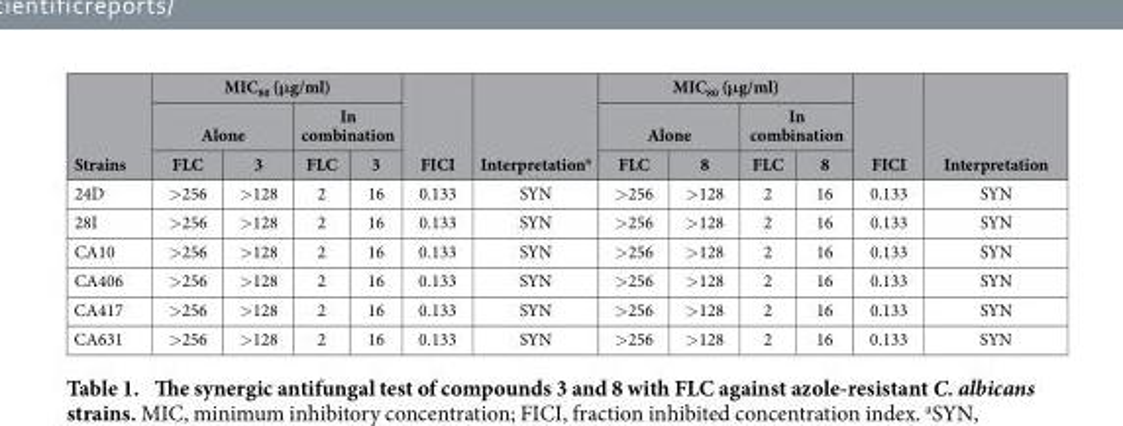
<table><thead><tr><td rowspan="3">Strains</td><td colspan="4">MIC<sub>80</sub> (μg/ml)</td><td rowspan="3">FICI</td><td rowspan="3">Interpretation<sup>a</sup></td><td colspan="4">MIC<sub>80</sub> (μg/ml)</td><td rowspan="3">FICI</td><td rowspan="3">Interpretation</td></tr><tr><td colspan="2">Alone</td><td colspan="2">In combination</td><td colspan="2">Alone</td><td colspan="2">In combination</td></tr><tr><td>FLC</td><td>3</td><td>FLC</td><td>3</td><td>FLC</td><td>8</td><td>FLC</td><td>8</td></tr></thead><tbody><tr><td>24D</td><td>&gt; 256</td><td>&gt; 128</td><td>2</td><td>16</td><td>0.133</td><td>SYN</td><td>&gt; 256</td><td>&gt; 128</td><td>2</td><td>16</td><td>0.133</td><td>SYN</td></tr><tr><td>28I</td><td>&gt; 256</td><td>&gt; 128</td><td>2</td><td>16</td><td>0.133</td><td>SYN</td><td>&gt; 256</td><td>&gt; 128</td><td>2</td><td>16</td><td>0.133</td><td>SYN</td></tr><tr><td>CA10</td><td>&gt; 256</td><td>&gt; 128</td><td>2</td><td>16</td><td>0.133</td><td>SYN</td><td>&gt; 256</td><td>&gt; 128</td><td>2</td><td>16</td><td>0.133</td><td>SYN</td></tr><tr><td>CA406</td><td>&gt; 256</td><td>&gt; 128</td><td>2</td><td>16</td><td>0.133</td><td>SYN</td><td>&gt; 256</td><td>&gt; 128</td><td>2</td><td>16</td><td>0.133</td><td>SYN</td></tr><tr><td>CA417</td><td>&gt; 256</td><td>&gt; 128</td><td>2</td><td>16</td><td>0.133</td><td>SYN</td><td>&gt; 256</td><td>&gt; 128</td><td>2</td><td>16</td><td>0.133</td><td>SYN</td></tr><tr><td>CA631</td><td>&gt; 256</td><td>&gt; 128</td><td>2</td><td>16</td><td>0.133</td><td>SYN</td><td>&gt; 256</td><td>&gt; 128</td><td>2</td><td>16</td><td>0.133</td><td>SYN</td></tr></tbody></table>